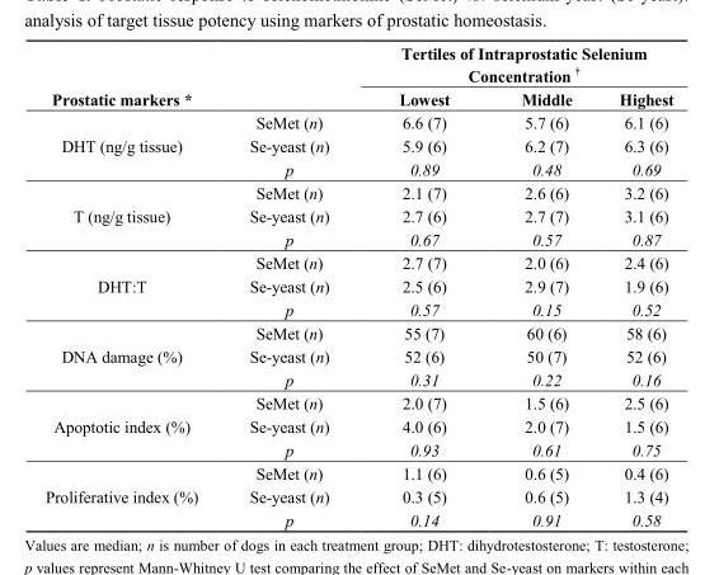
<table><thead><tr><td rowspan="2">Prostatic markers *</td><td rowspan="2"></td><td colspan="3">Tertiles of Intraprostatic Selenium Concentration <sup>†</sup></td></tr><tr><td>Lowest</td><td>Middle</td><td>Highest</td></tr></thead><tbody><tr><td rowspan="3">DHT (ng/g tissue)</td><td>SeMet (n)</td><td>6.6 (7)</td><td>5.7 (6)</td><td>6.1 (6)</td></tr><tr><td>Se-yeast (n)</td><td>5.9 (6)</td><td>6.2 (7)</td><td>6.3 (6)</td></tr><tr><td>p</td><td>0.89</td><td>0.48</td><td>0.69</td></tr><tr><td rowspan="3">T (ng/g tissue)</td><td>SeMet (n)</td><td>2.1 (7)</td><td>2.6 (6)</td><td>3.2 (6)</td></tr><tr><td>Se-yeast (n)</td><td>2.7 (6)</td><td>2.7 (7)</td><td>3.1 (6)</td></tr><tr><td>p</td><td>0.67</td><td>0.57</td><td>0.87</td></tr><tr><td rowspan="3">DHT:T</td><td>SeMet (n)</td><td>2.7 (7)</td><td>2.0 (6)</td><td>2.4 (6)</td></tr><tr><td>Se-yeast (n)</td><td>2.5 (6)</td><td>2.9 (7)</td><td>1.9 (6)</td></tr><tr><td>p</td><td>0.57</td><td>0.15</td><td>0.52</td></tr><tr><td rowspan="3">DNA damage (%)</td><td>SeMet (n)</td><td>55 (7)</td><td>60 (6)</td><td>58 (6)</td></tr><tr><td>Se-yeast (n)</td><td>52 (6)</td><td>50 (7)</td><td>52 (6)</td></tr><tr><td>p</td><td>0.31</td><td>0.22</td><td>0.16</td></tr><tr><td rowspan="3">Apoptotic index (%)</td><td>SeMet (n)</td><td>2.0 (7)</td><td>1.5 (6)</td><td>2.5 (6)</td></tr><tr><td>Se-yeast (n)</td><td>4.0 (6)</td><td>2.0 (7)</td><td>1.5 (6)</td></tr><tr><td>p</td><td>0.93</td><td>0.61</td><td>0.75</td></tr><tr><td rowspan="3">Proliferative index (%)</td><td>SeMet (n)</td><td>1.1 (6)</td><td>0.6 (5)</td><td>0.4 (6)</td></tr><tr><td>Se-yeast (n)</td><td>0.3 (5)</td><td>0.6 (5)</td><td>1.3 (4)</td></tr><tr><td>p</td><td>0.14</td><td>0.91</td><td>0.58</td></tr></tbody></table>